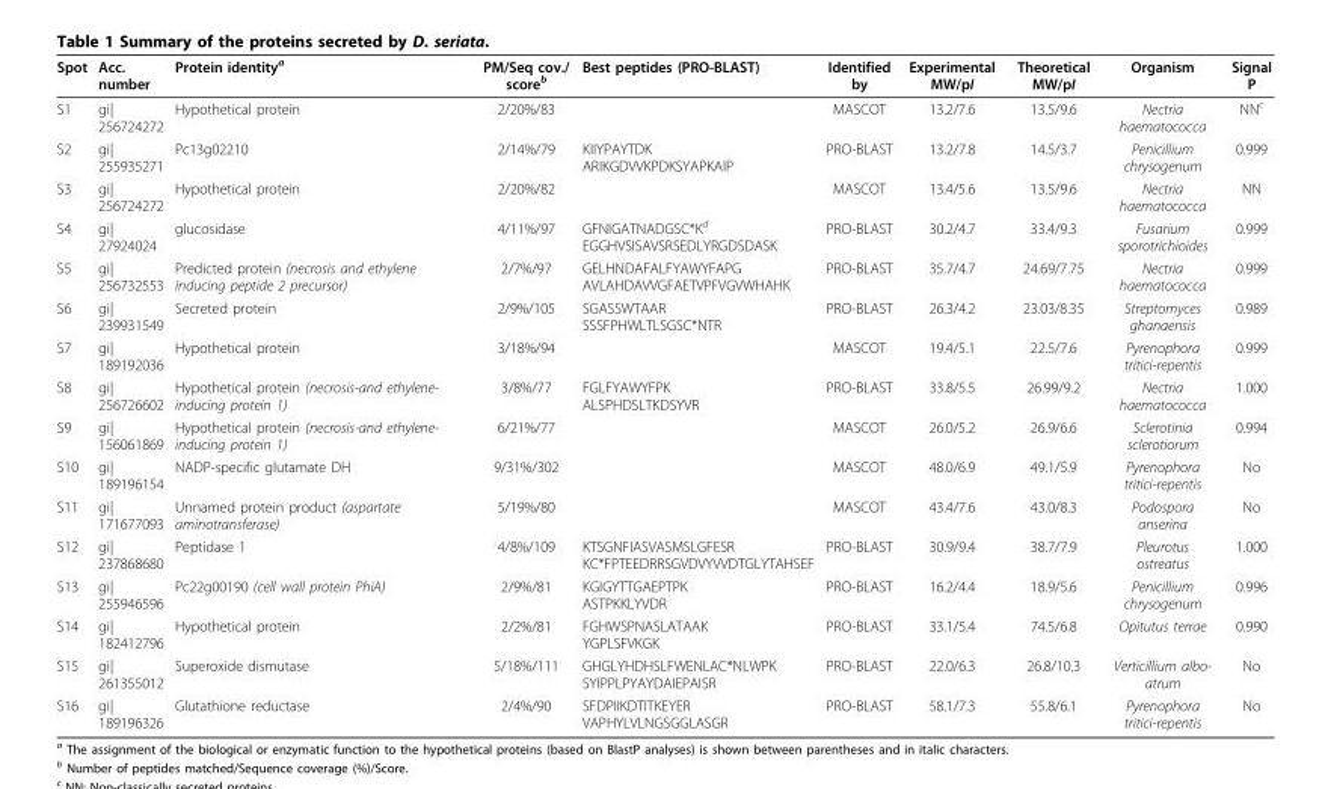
<table><thead><tr><td>Spot</td><td>Acc. number</td><td>Protein identity<sup>a</sup></td><td>PM/Seq cov./ score<sup>b</sup></td><td>Best peptides (PRO-BLAST)</td><td>Identified by</td><td>Experimental MW/pI</td><td>Theoretical MW/pI</td><td>Organism</td><td>Signal P</td></tr></thead><tbody><tr><td>S1</td><td>gi| 256724272</td><td>Hypothetical protein</td><td>2/20%/83</td><td></td><td>MASCOT</td><td>13.2/7.6</td><td>13.5/9.6</td><td>Nectria haematococca</td><td>NN<sup>c</sup></td></tr><tr><td>S2</td><td>gi| 255935271</td><td>Pc13g02210</td><td>2/14%/79</td><td>KIIYPAYTDK ARIKGDVVKPDKSYAPKAIP</td><td>PRO-BLAST</td><td>13.2/7.8</td><td>14.5/3.7</td><td>Penicillium chrysogenum</td><td>0.999</td></tr><tr><td>S3</td><td>gi| 256724272</td><td>Hypothetical protein</td><td>2/20%/82</td><td></td><td>MASCOT</td><td>13.4/5.6</td><td>13.5/9.6</td><td>Nectria haematococca</td><td>NN</td></tr><tr><td>S4</td><td>gi| 27924024</td><td>glucosidase</td><td>4/11%/97</td><td>GFNIGATNADGSC*K<sup>d</sup> EGGHVSISAVSRSEDLYRGDSDASK</td><td>PRO-BLAST</td><td>30.2/4.7</td><td>33.4/9.3</td><td>Fusarium sporotrichioides</td><td>0.999</td></tr><tr><td>S5</td><td>gi| 256732553</td><td>Predicted protein (necrosis and ethylene inducing peptide 2 precursor)</td><td>2/7%/97</td><td>GELHNDAFALFYAWYFAPG AVLAHDAVVGFAETVPFVGVWHAHK</td><td>PRO-BLAST</td><td>35.7/4.7</td><td>24.69/7.75</td><td>Nectria haematococca</td><td>0.999</td></tr><tr><td>S6</td><td>gi| 239931549</td><td>Secreted protein</td><td>2/9%/105</td><td>SGASSWTAAR SSSFPHWLTLSGSC*NTR</td><td>PRO-BLAST</td><td>26.3/4.2</td><td>23.03/8.35</td><td>Streptomyces ghanaensis</td><td>0.989</td></tr><tr><td>S7</td><td>gi| 189192036</td><td>Hypothetical protein</td><td>3/18%/94</td><td></td><td>MASCOT</td><td>19.4/5.1</td><td>22.5/7.6</td><td>Pyrenophora tritici-repentis</td><td>0.999</td></tr><tr><td>S8</td><td>gi| 256726602</td><td>Hypothetical protein (necrosis-and ethylene- inducing protein 1)</td><td>3/8%/77</td><td>FGLFYAWYFPK ALSPHDSLTKDSYVR</td><td>PRO-BLAST</td><td>33.8/5.5</td><td>26.99/9.2</td><td>Nectria haematococca</td><td>1.000</td></tr><tr><td>S9</td><td>gi| 156061869</td><td>Hypothetical protein (necrosis-and ethylene- inducing protein 1)</td><td>6/21%/77</td><td></td><td>MASCOT</td><td>26.0/5.2</td><td>26.9/6.6</td><td>Sclerotinia sclerotiorum</td><td>0.994</td></tr><tr><td>S10</td><td>gi| 189196154</td><td>NADP-specific glutamate DH</td><td>9/31%/302</td><td></td><td>MASCOT</td><td>48.0/6.9</td><td>49.1/5.9</td><td>Pyrenophora tritici-repentis</td><td>No</td></tr><tr><td>S11</td><td>gi| 171677093</td><td>Unnamed protein product (aspartate aminotransferase)</td><td>5/19%/80</td><td></td><td>MASCOT</td><td>43.4/7.6</td><td>43.0/8.3</td><td>Podospora anserina</td><td>No</td></tr><tr><td>S12</td><td>gi| 237868680</td><td>Peptidase 1</td><td>4/8%/109</td><td>KTSGNFIASVASMSLGFESR KC*FPTEEDRRSGVDVYVVDTGLYTAHSEF</td><td>PRO-BLAST</td><td>30.9/9.4</td><td>38.7/7.9</td><td>Pleurotus ostreatus</td><td>1.000</td></tr><tr><td>S13</td><td>gi| 255946596</td><td>Pc22g00190 (cell wall protein PhiA)</td><td>2/9%/81</td><td>KGIGYTTGAEPTPK ASTPKKLYVDR</td><td>PRO-BLAST</td><td>16.2/4.4</td><td>18.9/5.6</td><td>Penicillium chrysogenum</td><td>0.996</td></tr><tr><td>S14</td><td>gi| 182412796</td><td>Hypothetical protein</td><td>2/2%/81</td><td>FGHWSPNASLATAAK YGPLSFVKGK</td><td>PRO-BLAST</td><td>33.1/5.4</td><td>74.5/6.8</td><td>Opitutus terrae</td><td>0.990</td></tr><tr><td>S15</td><td>gi| 261355012</td><td>Superoxide dismutase</td><td>5/18%/111</td><td>GHGLYHDHSLFWENLAC*NLWPK SYIPPLPYAYDAIEPAISR</td><td>PRO-BLAST</td><td>22.0/6.3</td><td>26.8/10.3</td><td>Verticillium albo- atrum</td><td>No</td></tr><tr><td>S16</td><td>gi| 189196326</td><td>Glutathione reductase</td><td>2/4%/90</td><td>SFDPIIKDTITKEYER VAPHYLVLNGSGGLASGR</td><td>PRO-BLAST</td><td>58.1/7.3</td><td>55.8/6.1</td><td>Pyrenophora tritici-repentis</td><td>No</td></tr></tbody></table>